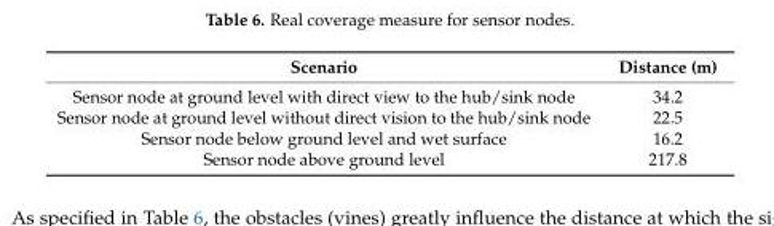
<table><thead><tr><td>Scenario</td><td>Distance (m)</td></tr></thead><tbody><tr><td>Sensor node at ground level with direct view to the hub/sink node</td><td>34.2</td></tr><tr><td>Sensor node at ground level without direct vision to the hub/sink node</td><td>22.5</td></tr><tr><td>Sensor node below ground level and wet surface</td><td>16.2</td></tr><tr><td>Sensor node above ground level</td><td>217.8</td></tr></tbody></table>